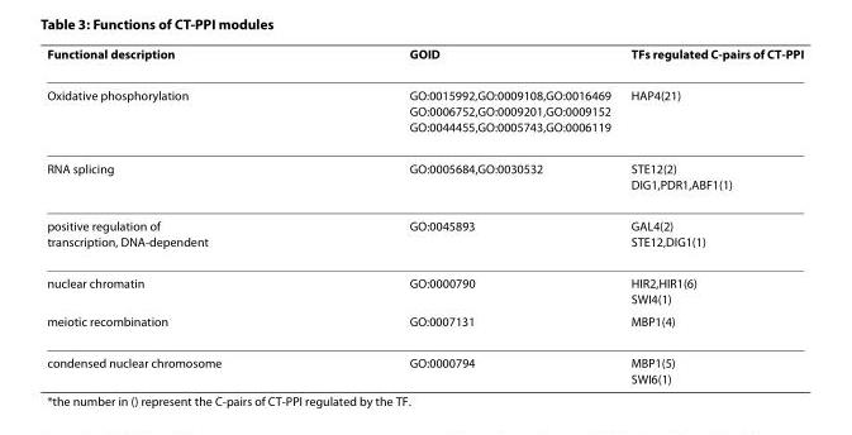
<table><thead><tr><td>Functional description</td><td>GOID</td><td>TFs regulated C-pairs of CT-PPI</td></tr></thead><tbody><tr><td>Oxidative phosphorylation</td><td>GO:0015992,GO:0009108,GO:0016469 GO:0006752,GO:0009201,GO:0009152 GO:0044455,GO:0005743,GO:0006119</td><td>HAP4(21)</td></tr><tr><td>RNA splicing</td><td>GO:0005684,GO:0030532</td><td>STE12(2) DIG1,PDR1,ABF1(1)</td></tr><tr><td>positive regulation of transcription, DNA-dependent</td><td>GO:0045893</td><td>GAL4(2) STE12,DIG1(1)</td></tr><tr><td>nuclear chromatin</td><td>GO:0000790</td><td>HIR2,HIR1(6) SWI4(1)</td></tr><tr><td>meiotic recombination</td><td>GO:0007131</td><td>MBP1(4)</td></tr><tr><td>condensed nuclear chromosome</td><td>GO:0000794</td><td>MBP1(5) SWI6(1)</td></tr></tbody></table>